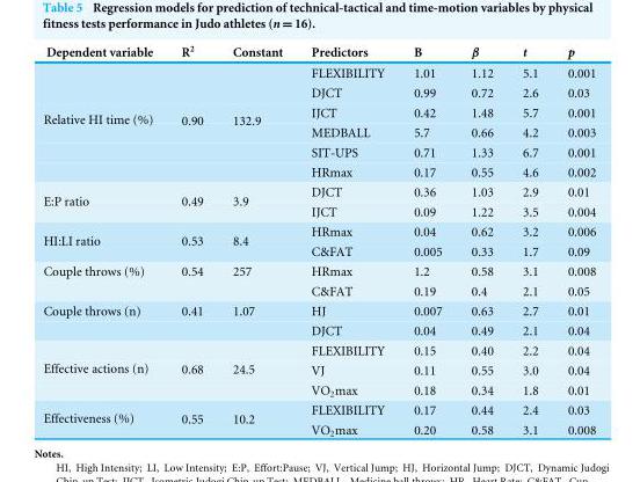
<table><thead><tr><td>Dependent variable</td><td>R<sup>2</sup></td><td>Constant</td><td>Predictors</td><td>B</td><td>β</td><td>t</td><td>p</td></tr></thead><tbody><tr><td rowspan="6">Relative HI time (%)</td><td rowspan="6">0.90</td><td rowspan="6">132.9</td><td>FLEXIBILITY</td><td>1.01</td><td>1.12</td><td>5.1</td><td>0.001</td></tr><tr><td>DJCT</td><td>0.99</td><td>0.72</td><td>2.6</td><td>0.03</td></tr><tr><td>IJCT</td><td>0.42</td><td>1.48</td><td>5.7</td><td>0.001</td></tr><tr><td>MEDBALL</td><td>5.7</td><td>0.66</td><td>4.2</td><td>0.003</td></tr><tr><td>SIT-UPS</td><td>0.71</td><td>1.33</td><td>6.7</td><td>0.001</td></tr><tr><td>HRmax</td><td>0.17</td><td>0.55</td><td>4.6</td><td>0.002</td></tr><tr><td rowspan="2">E:P ratio</td><td rowspan="2">0.49</td><td rowspan="2">3.9</td><td>DJCT</td><td>0.36</td><td>1.03</td><td>2.9</td><td>0.01</td></tr><tr><td>IJCT</td><td>0.09</td><td>1.22</td><td>3.5</td><td>0.004</td></tr><tr><td rowspan="2">HI:LI ratio</td><td rowspan="2">0.53</td><td rowspan="2">8.4</td><td>HRmax</td><td>0.04</td><td>0.62</td><td>3.2</td><td>0.006</td></tr><tr><td>C&amp;FAT</td><td>0.005</td><td>0.33</td><td>1.7</td><td>0.09</td></tr><tr><td rowspan="2">Couple throws (%)</td><td>0.54</td><td>257</td><td>HRmax</td><td>1.2</td><td>0.58</td><td>3.1</td><td>0.008</td></tr><tr><td></td><td></td><td>C&amp;FAT</td><td>0.19</td><td>0.4</td><td>2.1</td><td>0.05</td></tr><tr><td rowspan="2">Couple throws (n)</td><td>0.41</td><td>1.07</td><td>HJ</td><td>0.007</td><td>0.63</td><td>2.7</td><td>0.01</td></tr><tr><td></td><td></td><td>DJCT</td><td>0.04</td><td>0.49</td><td>2.1</td><td>0.04</td></tr><tr><td rowspan="3">Effective actions (n)</td><td rowspan="3">0.68</td><td rowspan="3">24.5</td><td>FLEXIBILITY</td><td>0.15</td><td>0.40</td><td>2.2</td><td>0.04</td></tr><tr><td>VJ</td><td>0.11</td><td>0.55</td><td>3.0</td><td>0.04</td></tr><tr><td>VO<sub>2</sub>max</td><td>0.18</td><td>0.34</td><td>1.8</td><td>0.01</td></tr><tr><td rowspan="2">Effectiveness (%)</td><td rowspan="2">0.55</td><td rowspan="2">10.2</td><td>FLEXIBILITY</td><td>0.17</td><td>0.44</td><td>2.4</td><td>0.03</td></tr><tr><td>VO<sub>2</sub>max</td><td>0.20</td><td>0.58</td><td>3.1</td><td>0.008</td></tr></tbody></table>